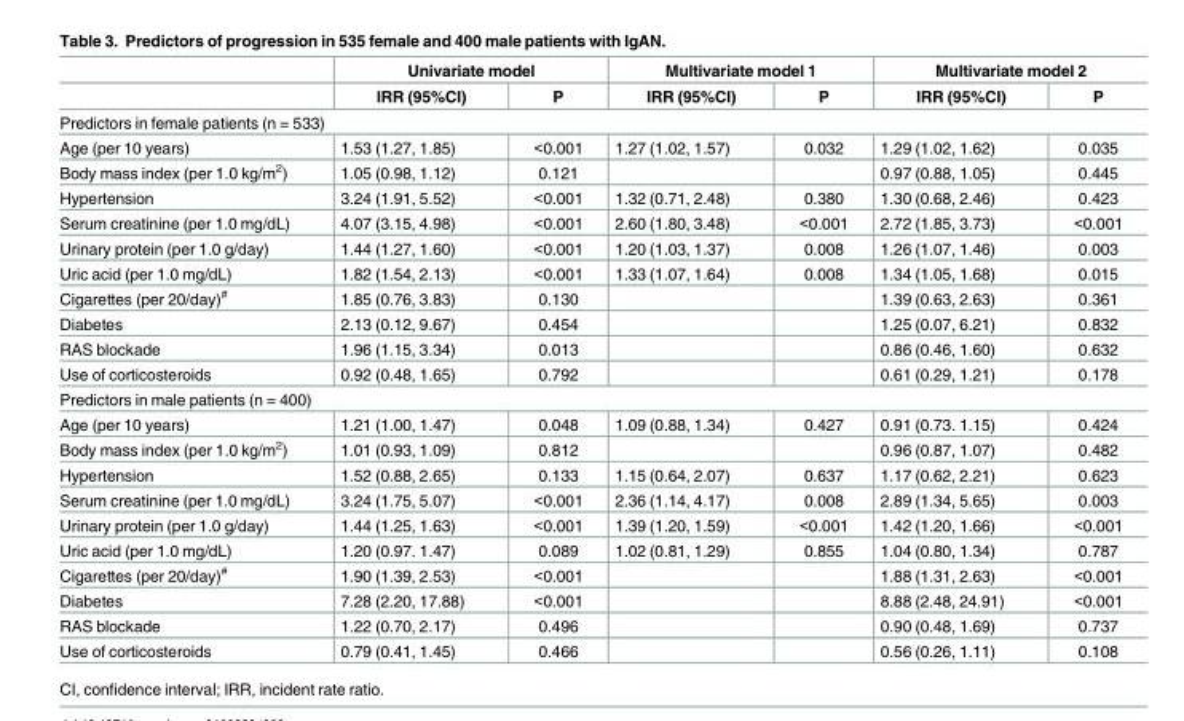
<table><thead><tr><td rowspan="2"></td><td colspan="2">Univariate model</td><td colspan="2">Multivariate model 1</td><td colspan="2">Multivariate model 2</td></tr><tr><td>IRR (95%CI)</td><td>P</td><td>IRR (95%CI)</td><td>P</td><td>IRR (95%CI)</td><td>P</td></tr></thead><tbody><tr><td colspan="7">Predictors in female patients (n = 533)</td></tr><tr><td>Age (per 10 years)</td><td>1.53 (1.27, 1.85)</td><td>&lt;0.001</td><td>1.27 (1.02, 1.57)</td><td>0.032</td><td>1.29 (1.02, 1.62)</td><td>0.035</td></tr><tr><td>Body mass index (per 1.0 kg/m<sup>2</sup>)</td><td>1.05 (0.98, 1.12)</td><td>0.121</td><td></td><td></td><td>0.97 (0.88, 1.05)</td><td>0.445</td></tr><tr><td>Hypertension</td><td>3.24 (1.91, 5.52)</td><td>&lt;0.001</td><td>1.32 (0.71, 2.48)</td><td>0.380</td><td>1.30 (0.68, 2.46)</td><td>0.423</td></tr><tr><td>Serum creatinine (per 1.0 mg/dL)</td><td>4.07 (3.15, 4.98)</td><td>&lt;0.001</td><td>2.60 (1.80, 3.48)</td><td>&lt;0.001</td><td>2.72 (1.85, 3.73)</td><td>&lt;0.001</td></tr><tr><td>Urinary protein (per 1.0 g/day)</td><td>1.44 (1.27, 1.60)</td><td>&lt;0.001</td><td>1.20 (1.03, 1.37)</td><td>0.008</td><td>1.26 (1.07, 1.46)</td><td>0.003</td></tr><tr><td>Uric acid (per 1.0 mg/dL)</td><td>1.82 (1.54, 2.13)</td><td>&lt;0.001</td><td>1.33 (1.07, 1.64)</td><td>0.008</td><td>1.34 (1.05, 1.68)</td><td>0.015</td></tr><tr><td>Cigarettes (per 20/day)<sup>#</sup></td><td>1.85 (0.76, 3.83)</td><td>0.130</td><td></td><td></td><td>1.39 (0.63, 2.63)</td><td>0.361</td></tr><tr><td>Diabetes</td><td>2.13 (0.12, 9.67)</td><td>0.454</td><td></td><td></td><td>1.25 (0.07, 6.21)</td><td>0.832</td></tr><tr><td>RAS blockade</td><td>1.96 (1.15, 3.34)</td><td>0.013</td><td></td><td></td><td>0.86 (0.46, 1.60)</td><td>0.632</td></tr><tr><td>Use of corticosteroids</td><td>0.92 (0.48, 1.65)</td><td>0.792</td><td></td><td></td><td>0.61 (0.29, 1.21)</td><td>0.178</td></tr><tr><td colspan="7">Predictors in male patients (n = 400)</td></tr><tr><td>Age (per 10 years)</td><td>1.21 (1.00, 1.47)</td><td>0.048</td><td>1.09 (0.88, 1.34)</td><td>0.427</td><td>0.91 (0.73. 1.15)</td><td>0.424</td></tr><tr><td>Body mass index (per 1.0 kg/m<sup>2</sup>)</td><td>1.01 (0.93, 1.09)</td><td>0.812</td><td></td><td></td><td>0.96 (0.87, 1.07)</td><td>0.482</td></tr><tr><td>Hypertension</td><td>1.52 (0.88, 2.65)</td><td>0.133</td><td>1.15 (0.64, 2.07)</td><td>0.637</td><td>1.17 (0.62, 2.21)</td><td>0.623</td></tr><tr><td>Serum creatinine (per 1.0 mg/dL)</td><td>3.24 (1.75, 5.07)</td><td>&lt;0.001</td><td>2.36 (1.14, 4.17)</td><td>0.008</td><td>2.89 (1.34, 5.65)</td><td>0.003</td></tr><tr><td>Urinary protein (per 1.0 g/day)</td><td>1.44 (1.25, 1.63)</td><td>&lt;0.001</td><td>1.39 (1.20, 1.59)</td><td>&lt;0.001</td><td>1.42 (1.20, 1.66)</td><td>&lt;0.001</td></tr><tr><td>Uric acid (per 1.0 mg/dL)</td><td>1.20 (0.97. 1.47)</td><td>0.089</td><td>1.02 (0.81, 1.29)</td><td>0.855</td><td>1.04 (0.80, 1.34)</td><td>0.787</td></tr><tr><td>Cigarettes (per 20/day)<sup>#</sup></td><td>1.90 (1.39, 2.53)</td><td>&lt;0.001</td><td></td><td></td><td>1.88 (1.31, 2.63)</td><td>&lt;0.001</td></tr><tr><td>Diabetes</td><td>7.28 (2.20, 17.88)</td><td>&lt;0.001</td><td></td><td></td><td>8.88 (2.48, 24.91)</td><td>&lt;0.001</td></tr><tr><td>RAS blockade</td><td>1.22 (0.70, 2.17)</td><td>0.496</td><td></td><td></td><td>0.90 (0.48, 1.69)</td><td>0.737</td></tr><tr><td>Use of corticosteroids</td><td>0.79 (0.41, 1.45)</td><td>0.466</td><td></td><td></td><td>0.56 (0.26, 1.11)</td><td>0.108</td></tr></tbody></table>